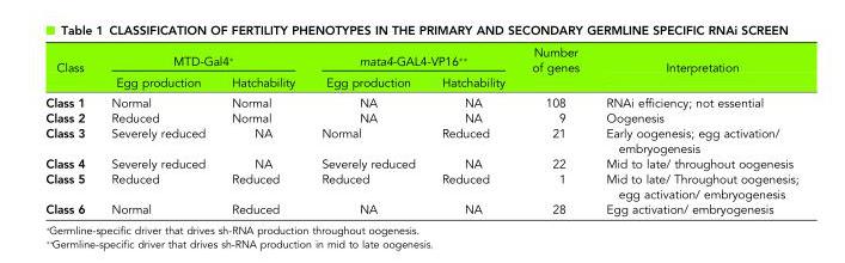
<table><thead><tr><td rowspan="2">Class</td><td colspan="2">MTD-Gal4*</td><td colspan="2">mata4-GAL4-VP16**</td><td rowspan="2">Number of genes</td><td rowspan="2">Interpretation</td></tr><tr><td>Egg production</td><td>Hatchability</td><td>Egg production</td><td>Hatchability</td></tr></thead><tbody><tr><td>Class 1</td><td>Normal</td><td>Normal</td><td>NA</td><td>NA</td><td>108</td><td>RNAi efficiency; not essential</td></tr><tr><td>Class 2</td><td>Reduced</td><td>Normal</td><td>NA</td><td>NA</td><td>9</td><td>Oogenesis</td></tr><tr><td>Class 3</td><td>Severely reduced</td><td>NA</td><td>Normal</td><td>Reduced</td><td>21</td><td>Early oogenesis; egg activation/ embryogenesis</td></tr><tr><td>Class 4</td><td>Severely reduced</td><td>NA</td><td>Severely reduced</td><td>NA</td><td>22</td><td>Mid to late/ throughout oogenesis</td></tr><tr><td>Class 5</td><td>Reduced</td><td>Reduced</td><td>Reduced</td><td>Reduced</td><td>1</td><td>Mid to late/ Throughout oogenesis; egg activation/ embryogenesis</td></tr><tr><td>Class 6</td><td>Normal</td><td>Reduced</td><td>NA</td><td>NA</td><td>28</td><td>Egg activation/ embryogenesis</td></tr></tbody></table>